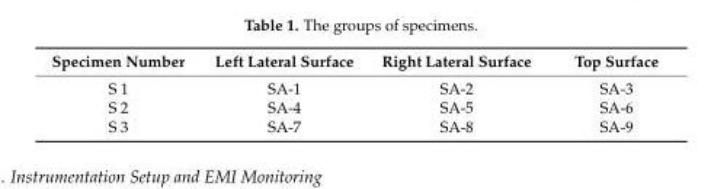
<table><thead><tr><td>Specimen Number</td><td>Left Lateral Surface</td><td>Right Lateral Surface</td><td>Top Surface</td></tr></thead><tbody><tr><td>S 1</td><td>SA-1</td><td>SA-2</td><td>SA-3</td></tr><tr><td>S 2</td><td>SA-4</td><td>SA-5</td><td>SA-6</td></tr><tr><td>S 3</td><td>SA-7</td><td>SA-8</td><td>SA-9</td></tr></tbody></table>